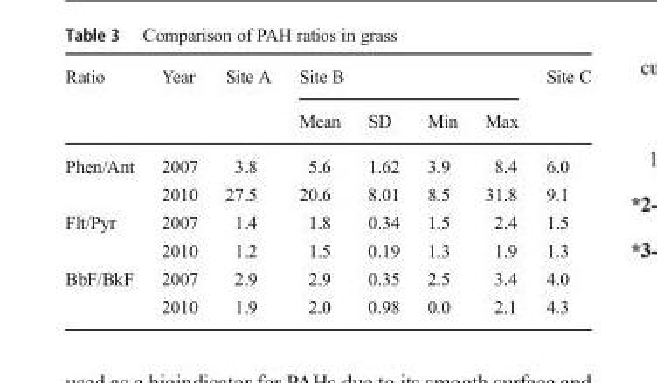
<table><thead><tr><td rowspan="2">Ratio</td><td rowspan="2">Year</td><td rowspan="2">Site A</td><td colspan="4">Site B</td><td rowspan="2">Site C</td></tr><tr><td>Mean</td><td>SD</td><td>Min</td><td>Max</td></tr></thead><tbody><tr><td rowspan="2">Phen/Ant</td><td>2007</td><td>3.8</td><td>5.6</td><td>1.62</td><td>3.9</td><td>8.4</td><td>6.0</td></tr><tr><td>2010</td><td>27.5</td><td>20.6</td><td>8.01</td><td>8.5</td><td>31.8</td><td>9.1</td></tr><tr><td rowspan="2">Flt/Pyr</td><td>2007</td><td>1.4</td><td>1.8</td><td>0.34</td><td>1.5</td><td>2.4</td><td>1.5</td></tr><tr><td>2010</td><td>1.2</td><td>1.5</td><td>0.19</td><td>1.3</td><td>1.9</td><td>1.3</td></tr><tr><td rowspan="2">BbF/BkF</td><td>2007</td><td>2.9</td><td>2.9</td><td>0.35</td><td>2.5</td><td>3.4</td><td>4.0</td></tr><tr><td>2010</td><td>1.9</td><td>2.0</td><td>0.98</td><td>0.0</td><td>2.1</td><td>4.3</td></tr></tbody></table>